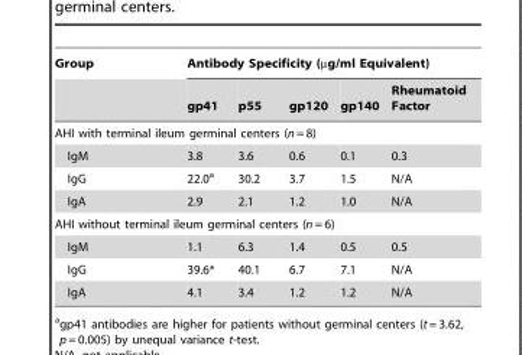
<table><thead><tr><td rowspan="2">Group</td><td colspan="5">Antibody Specificity (µg/ml Equivalent)</td></tr><tr><td>gp41</td><td>p55</td><td>gp120</td><td>gp140</td><td>Rheumatoid Factor</td></tr></thead><tbody><tr><td colspan="6">AHI with terminal ileum germinal centers (n = 8)</td></tr><tr><td>IgM</td><td>3.8</td><td>3.6</td><td>0.6</td><td>0.1</td><td>0.3</td></tr><tr><td>IgG</td><td>22.0<sup>a</sup></td><td>30.2</td><td>3.7</td><td>1.5</td><td>N/A</td></tr><tr><td>IgA</td><td>2.9</td><td>2.1</td><td>1.2</td><td>1.0</td><td>N/A</td></tr><tr><td colspan="6">AHI without terminal ileum germinal centers (n = 6)</td></tr><tr><td>IgM</td><td>1.1</td><td>6.3</td><td>1.4</td><td>0.5</td><td>0.5</td></tr><tr><td>IgG</td><td>39.6*</td><td>40.1</td><td>6.7</td><td>7.1</td><td>N/A</td></tr><tr><td>IgA</td><td>4.1</td><td>3.4</td><td>1.2</td><td>1.2</td><td>N/A</td></tr></tbody></table>